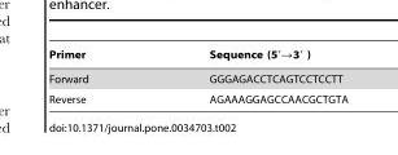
<table><thead><tr><td>Primer</td><td>Sequence (5′→3′ )</td></tr></thead><tbody><tr><td>Forward</td><td>GGGAGACCTCAGTCCTCCTT</td></tr><tr><td>Reverse</td><td>AGAAAGGAGCCAACGCTGTA</td></tr></tbody></table>